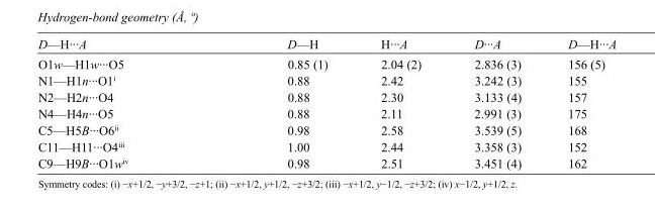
<table><tbody><tr><td>D—H···A</td><td>D—H</td><td>H···A</td><td>D···A</td><td>D—H···A</td></tr><tr><td>O1w—H1w···O5</td><td>0.85 (1)</td><td>2.04 (2)</td><td>2.836 (3)</td><td>156 (5)</td></tr><tr><td>N1—H1n···O1<sup>i</sup></td><td>0.88</td><td>2.42</td><td>3.242 (3)</td><td>155</td></tr><tr><td>N2—H2n···O4</td><td>0.88</td><td>2.30</td><td>3.133 (4)</td><td>157</td></tr><tr><td>N4—H4n···O5</td><td>0.88</td><td>2.11</td><td>2.991 (3)</td><td>175</td></tr><tr><td>C5—H5B···O6<sup>ii</sup></td><td>0.98</td><td>2.58</td><td>3.539 (5)</td><td>168</td></tr><tr><td>C11—H11···O4<sup>iii</sup></td><td>1.00</td><td>2.44</td><td>3.358 (3)</td><td>152</td></tr><tr><td>C9—H9B···O1w<sup>iv</sup></td><td>0.98</td><td>2.51</td><td>3.451 (4)</td><td>162</td></tr></tbody></table>